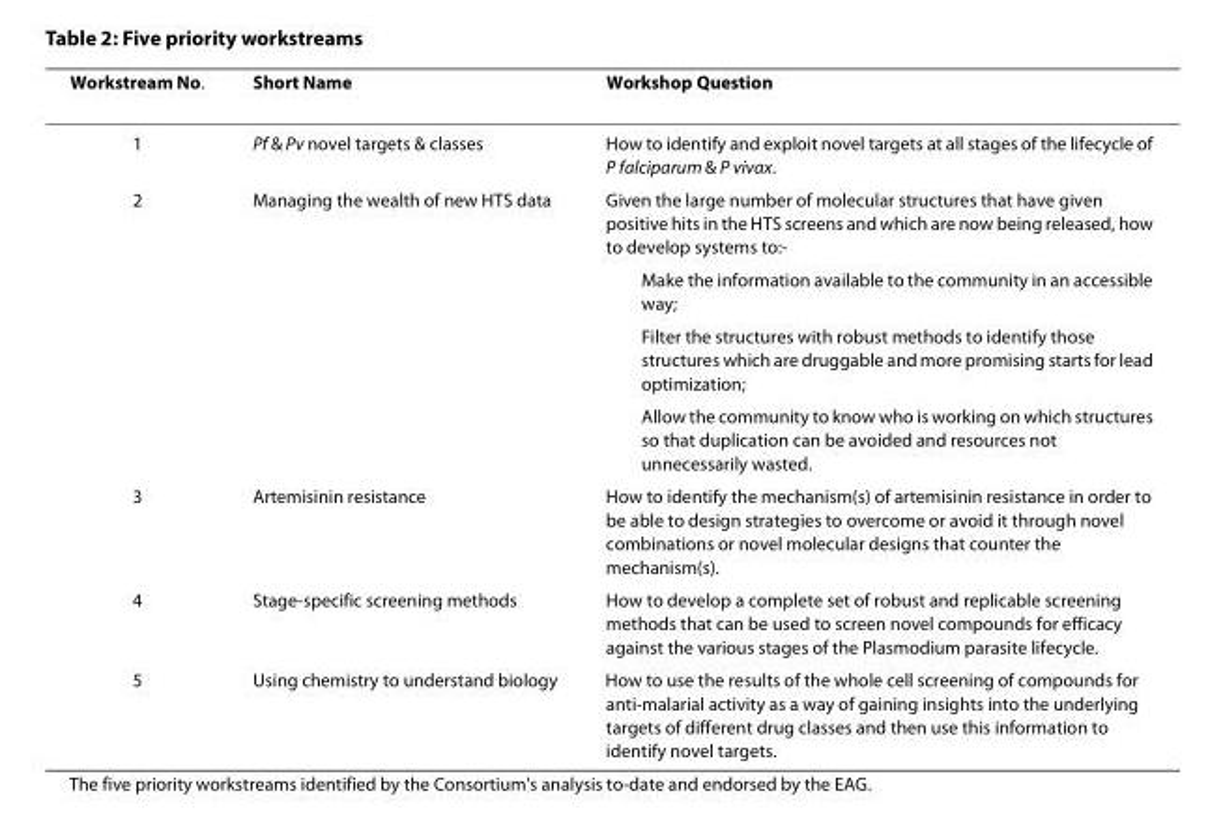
<table><thead><tr><td>Workstream No.</td><td>Short Name</td><td>Workshop Question</td></tr></thead><tbody><tr><td>1</td><td>Pf &amp; Pv novel targets &amp; classes</td><td>How to identify and exploit novel targets at all stages of the lifecycle of P falciparum &amp; P vivax.</td></tr><tr><td rowspan="4">2</td><td>Managing the wealth of new HTS data</td><td>Given the large number of molecular structures that have given positive hits in the HTS screens and which are now being released, how to develop systems to:-</td></tr><tr><td></td><td>Make the information available to the community in an accessible way;</td></tr><tr><td></td><td>Filter the structures with robust methods to identify those structures which are druggable and more promising starts for lead optimization;</td></tr><tr><td></td><td>Allow the community to know who is working on which structures so that duplication can be avoided and resources not unnecessarily wasted.</td></tr><tr><td>3</td><td>Artemisinin resistance</td><td>How to identify the mechanism(s) of artemisinin resistance in order to be able to design strategies to overcome or avoid it through novel combinations or novel molecular designs that counter the mechanism(s).</td></tr><tr><td>4</td><td>Stage-specific screening methods</td><td>How to develop a complete set of robust and replicable screening methods that can be used to screen novel compounds for efficacy against the various stages of the Plasmodium parasite lifecycle.</td></tr><tr><td>5</td><td>Using chemistry to understand biology</td><td>How to use the results of the whole cell screening of compounds for anti-malarial activity as a way of gaining insights into the underlying targets of different drug classes and then use this information to identify novel targets.</td></tr></tbody></table>